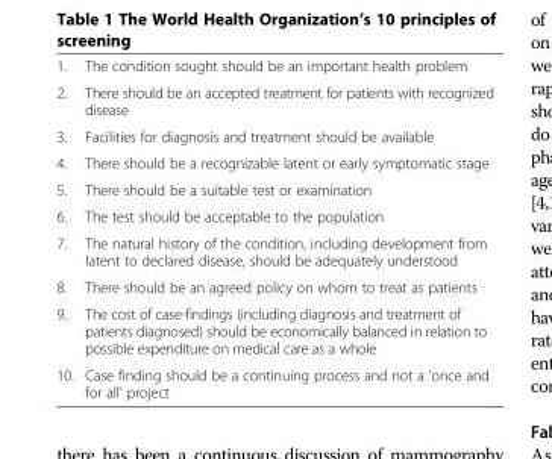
<table><tbody><tr><td>1.</td><td>The condition sought should be an important health problem</td></tr><tr><td>2.</td><td>There should be an accepted treatment for patients with recognized disease</td></tr><tr><td>3.</td><td>Facilities for diagnosis and treatment should be available</td></tr><tr><td>4.</td><td>There should be a recognizable latent or early symptomatic stage</td></tr><tr><td>5.</td><td>There should be a suitable test or examination</td></tr><tr><td>6.</td><td>The test should be acceptable to the population</td></tr><tr><td>7.</td><td>The natural history of the condition, including development from latent to declared disease, should be adequately understood</td></tr><tr><td>8.</td><td>There should be an agreed policy on whom to treat as patients</td></tr><tr><td>9.</td><td>The cost of case-findings (including diagnosis and treatment of patients diagnosed) should be economically balanced in relation to possible expenditure on medical care as a whole</td></tr><tr><td>10.</td><td>Case finding should be a continuing process and not a &#x27;once and for all&#x27; project</td></tr></tbody></table>